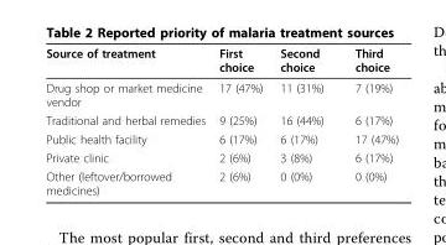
<table><thead><tr><td>Source of treatment</td><td>First choice</td><td>Second choice</td><td>Third choice</td></tr></thead><tbody><tr><td>Drug shop or market medicine vendor</td><td>17 (47%)</td><td>11 (31%)</td><td>7 (19%)</td></tr><tr><td>Traditional and herbal remedies</td><td>9 (25%)</td><td>16 (44%)</td><td>6 (17%)</td></tr><tr><td>Public health facility</td><td>6 (17%)</td><td>6 (17%)</td><td>17 (47%)</td></tr><tr><td>Private clinic</td><td>2 (6%)</td><td>3 (8%)</td><td>6 (17%)</td></tr><tr><td>Other (leftover/borrowed medicines)</td><td>2 (6%)</td><td>0 (0%)</td><td>0 (0%)</td></tr></tbody></table>